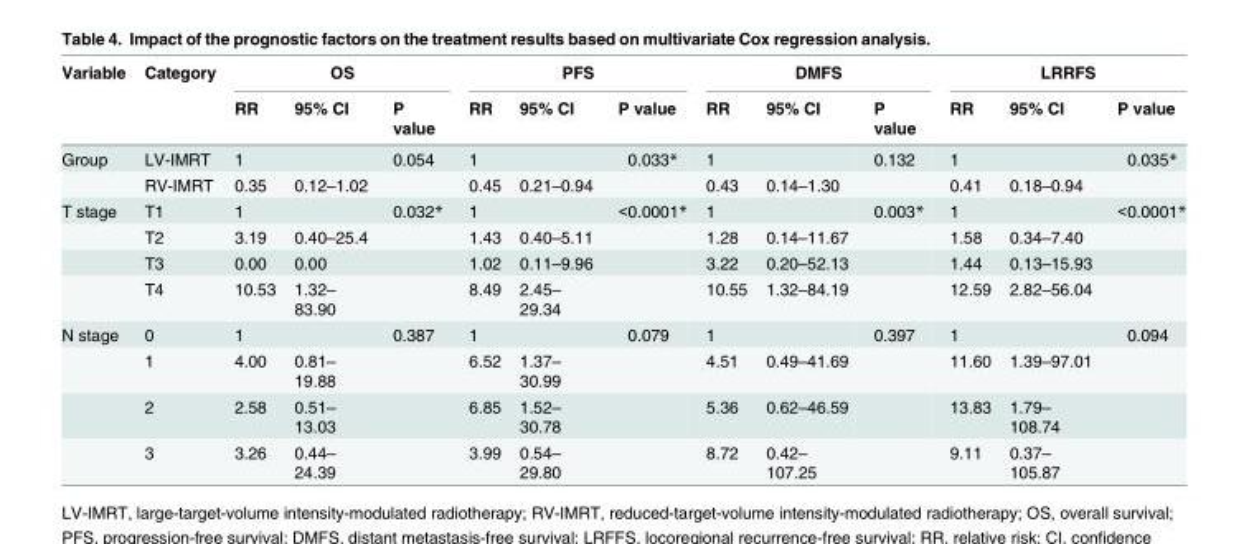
<table><thead><tr><td rowspan="2">Variable</td><td rowspan="2">Category</td><td colspan="3">OS</td><td colspan="3">PFS</td><td colspan="3">DMFS</td><td colspan="3">LRRFS</td></tr><tr><td>RR</td><td>95% CI</td><td>P value</td><td>RR</td><td>95% CI</td><td>P value</td><td>RR</td><td>95% CI</td><td>P value</td><td>RR</td><td>95% CI</td><td>P value</td></tr></thead><tbody><tr><td rowspan="2">Group</td><td>LV-IMRT</td><td>1</td><td></td><td>0.054</td><td>1</td><td></td><td>0.033*</td><td>1</td><td></td><td>0.132</td><td>1</td><td></td><td>0.035*</td></tr><tr><td>RV-IMRT</td><td>0.35</td><td>0.12–1.02</td><td></td><td>0.45</td><td>0.21–0.94</td><td></td><td>0.43</td><td>0.14–1.30</td><td></td><td>0.41</td><td>0.18–0.94</td><td></td></tr><tr><td rowspan="4">T stage</td><td>T1</td><td>1</td><td></td><td>0.032*</td><td>1</td><td></td><td>&lt;0.0001*</td><td>1</td><td></td><td>0.003*</td><td>1</td><td></td><td>&lt;0.0001*</td></tr><tr><td>T2</td><td>3.19</td><td>0.40–25.4</td><td></td><td>1.43</td><td>0.40–5.11</td><td></td><td>1.28</td><td>0.14–11.67</td><td></td><td>1.58</td><td>0.34–7.40</td><td></td></tr><tr><td>T3</td><td>0.00</td><td>0.00</td><td></td><td>1.02</td><td>0.11–9.96</td><td></td><td>3.22</td><td>0.20–52.13</td><td></td><td>1.44</td><td>0.13–15.93</td><td></td></tr><tr><td>T4</td><td>10.53</td><td>1.32– 83.90</td><td></td><td>8.49</td><td>2.45– 29.34</td><td></td><td>10.55</td><td>1.32–84.19</td><td></td><td>12.59</td><td>2.82–56.04</td><td></td></tr><tr><td rowspan="4">N stage</td><td>0</td><td>1</td><td></td><td>0.387</td><td>1</td><td></td><td>0.079</td><td>1</td><td></td><td>0.397</td><td>1</td><td></td><td>0.094</td></tr><tr><td>1</td><td>4.00</td><td>0.81– 19.88</td><td></td><td>6.52</td><td>1.37– 30.99</td><td></td><td>4.51</td><td>0.49–41.69</td><td></td><td>11.60</td><td>1.39–97.01</td><td></td></tr><tr><td>2</td><td>2.58</td><td>0.51– 13.03</td><td></td><td>6.85</td><td>1.52– 30.78</td><td></td><td>5.36</td><td>0.62–46.59</td><td></td><td>13.83</td><td>1.79– 108.74</td><td></td></tr><tr><td>3</td><td>3.26</td><td>0.44– 24.39</td><td></td><td>3.99</td><td>0.54– 29.80</td><td></td><td>8.72</td><td>0.42– 107.25</td><td></td><td>9.11</td><td>0.37– 105.87</td><td></td></tr></tbody></table>